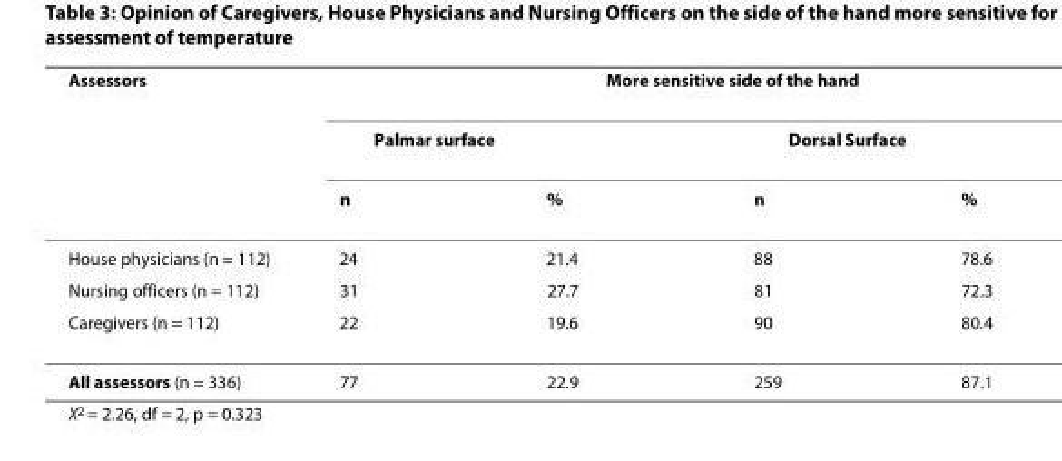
<table><thead><tr><td rowspan="3">Assessors</td><td colspan="4">More sensitive side of the hand</td></tr><tr><td colspan="2">Palmar surface</td><td colspan="2">Dorsal Surface</td></tr><tr><td>n</td><td>%</td><td>n</td><td>%</td></tr></thead><tbody><tr><td>House physicians (n = 112)</td><td>24</td><td>21.4</td><td>88</td><td>78.6</td></tr><tr><td>Nursing officers (n = 112)</td><td>31</td><td>27.7</td><td>81</td><td>72.3</td></tr><tr><td>Caregivers (n = 112)</td><td>22</td><td>19.6</td><td>90</td><td>80.4</td></tr><tr><td>All assessors (n = 336)</td><td>77</td><td>22.9</td><td>259</td><td>87.1</td></tr></tbody></table>